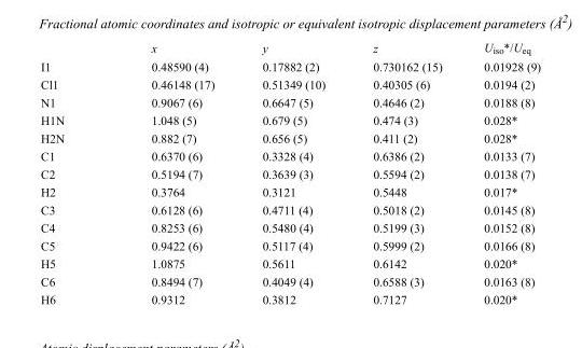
<table><thead><tr><td></td><td>x</td><td>y</td><td>z</td><td>U<sub>iso</sub>*/U<sub>eq</sub></td></tr></thead><tbody><tr><td>I1</td><td>0.48590 (4)</td><td>0.17882 (2)</td><td>0.730162 (15)</td><td>0.01928 (9)</td></tr><tr><td>Cl1</td><td>0.46148 (17)</td><td>0.51349 (10)</td><td>0.40305 (6)</td><td>0.0194 (2)</td></tr><tr><td>N1</td><td>0.9067 (6)</td><td>0.6647 (5)</td><td>0.4646 (2)</td><td>0.0188 (8)</td></tr><tr><td>H1N</td><td>1.048 (5)</td><td>0.679 (5)</td><td>0.474 (3)</td><td>0.028*</td></tr><tr><td>H2N</td><td>0.882 (7)</td><td>0.656 (5)</td><td>0.411 (2)</td><td>0.028*</td></tr><tr><td>C1</td><td>0.6370 (6)</td><td>0.3328 (4)</td><td>0.6386 (2)</td><td>0.0133 (7)</td></tr><tr><td>C2</td><td>0.5194 (7)</td><td>0.3639 (3)</td><td>0.5594 (2)</td><td>0.0138 (7)</td></tr><tr><td>H2</td><td>0.3764</td><td>0.3121</td><td>0.5448</td><td>0.017*</td></tr><tr><td>C3</td><td>0.6128 (6)</td><td>0.4711 (4)</td><td>0.5018 (2)</td><td>0.0145 (8)</td></tr><tr><td>C4</td><td>0.8253 (6)</td><td>0.5480 (4)</td><td>0.5199 (3)</td><td>0.0152 (8)</td></tr><tr><td>C5</td><td>0.9422 (6)</td><td>0.5117 (4)</td><td>0.5999 (2)</td><td>0.0166 (8)</td></tr><tr><td>H5</td><td>1.0875</td><td>0.5611</td><td>0.6142</td><td>0.020*</td></tr><tr><td>C6</td><td>0.8494 (7)</td><td>0.4049 (4)</td><td>0.6588 (3)</td><td>0.0163 (8)</td></tr><tr><td>H6</td><td>0.9312</td><td>0.3812</td><td>0.7127</td><td>0.020*</td></tr></tbody></table>